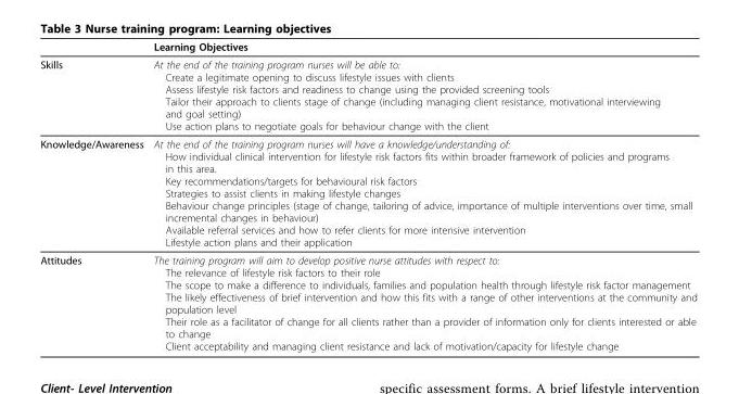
<table><thead><tr><td></td><td>Learning Objectives</td></tr></thead><tbody><tr><td>Skills</td><td>At the end of the training program nurses will be able to: Create a legitimate opening to discuss lifestyle issues with clients Assess lifestyle risk factors and readiness to change using the provided screening tools Tailor their approach to clients stage of change (including managing client resistance, motivational interviewing and goal setting) Use action plans to negotiate goals for behaviour change with the client</td></tr><tr><td>Knowledge/Awareness</td><td>At the end of the training program nurses will have a knowledge/understanding of: How individual clinical intervention for lifestyle risk factors fits within broader framework of policies and programs in this area. Key recommendations/targets for behavioural risk factors Strategies to assist clients in making lifestyle changes Behaviour change principles (stage of change, tailoring of advice, importance of multiple interventions over time, small incremental changes in behaviour) Available referral services and how to refer clients for more intensive intervention Lifestyle action plans and their application</td></tr><tr><td>Attitudes</td><td>The training program will aim to develop positive nurse attitudes with respect to: The relevance of lifestyle risk factors to their role The scope to make a difference to individuals, families and population health through lifestyle risk factor management The likely effectiveness of brief intervention and how this fits with a range of other interventions at the community and population level Their role as a facilitator of change for all clients rather than a provider of information only for clients interested or able to change Client acceptability and managing client resistance and lack of motivation/capacity for lifestyle change</td></tr></tbody></table>